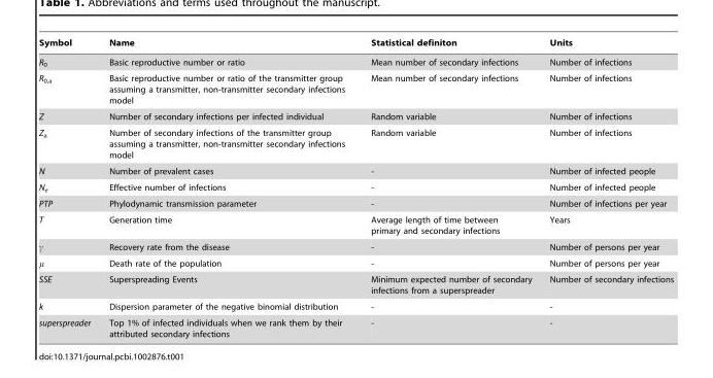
<table><thead><tr><td>Symbol</td><td>Name</td><td>Statistical definiton</td><td>Units</td></tr></thead><tbody><tr><td>R<sub>0</sub></td><td>Basic reproductive number or ratio</td><td>Mean number of secondary infections</td><td>Number of infections</td></tr><tr><td>R<sub>0,a</sub></td><td>Basic reproductive number or ratio of the transmitter group assuming a transmitter, non-transmitter secondary infections model</td><td>Mean number of secondary infections</td><td>Number of infections</td></tr><tr><td>Z</td><td>Number of secondary infections per infected individual</td><td>Random variable</td><td>Number of infections</td></tr><tr><td>Z<sub>a</sub></td><td>Number of secondary infections of the transmitter group assuming a transmitter, non-transmitter secondary infections model</td><td>Random variable</td><td>Number of infections</td></tr><tr><td>N</td><td>Number of prevalent cases</td><td>-</td><td>Number of infected people</td></tr><tr><td>N<sub>e</sub></td><td>Effective number of infections</td><td>-</td><td>Number of infected people</td></tr><tr><td>PTP</td><td>Phylodynamic transmission parameter</td><td>-</td><td>Number of infections per year</td></tr><tr><td>T</td><td>Generation time</td><td>Average length of time between primary and secondary infections</td><td>Years</td></tr><tr><td>γ</td><td>Recovery rate from the disease</td><td>-</td><td>Number of persons per year</td></tr><tr><td>μ</td><td>Death rate of the population</td><td>-</td><td>Number of persons per year</td></tr><tr><td>SSE</td><td>Superspreading Events</td><td>Minimum expected number of secondary infections from a superspreader</td><td>Number of secondary infections</td></tr><tr><td>k</td><td>Dispersion parameter of the negative binomial distribution</td><td>-</td><td>-</td></tr><tr><td>superspreader</td><td>Top 1% of infected individuals when we rank them by their attributed secondary infections</td><td>-</td><td>-</td></tr></tbody></table>